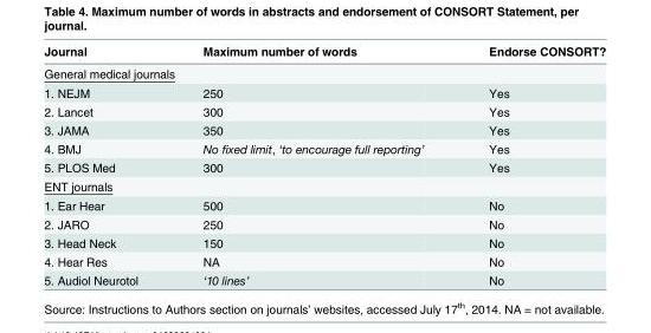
<table><thead><tr><td>Journal</td><td>Maximum number of words</td><td>Endorse CONSORT?</td></tr></thead><tbody><tr><td colspan="3">General medical journals</td></tr><tr><td>1. NEJM</td><td>250</td><td>Yes</td></tr><tr><td>2. Lancet</td><td>300</td><td>Yes</td></tr><tr><td>3. JAMA</td><td>350</td><td>Yes</td></tr><tr><td>4. BMJ</td><td>No fixed limit, ‘to encourage full reporting’</td><td>Yes</td></tr><tr><td>5. PLOS Med</td><td>300</td><td>Yes</td></tr><tr><td colspan="3">ENT journals</td></tr><tr><td>1. Ear Hear</td><td>500</td><td>No</td></tr><tr><td>2. JARO</td><td>250</td><td>No</td></tr><tr><td>3. Head Neck</td><td>150</td><td>No</td></tr><tr><td>4. Hear Res</td><td>NA</td><td>No</td></tr><tr><td>5. Audiol Neurotol</td><td>‘10 lines’</td><td>No</td></tr></tbody></table>